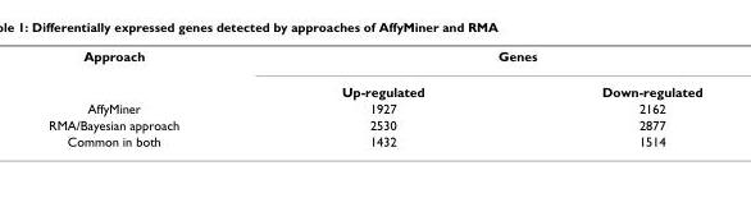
<table><tbody><tr><td rowspan="2">Approach</td><td colspan="2">Genes</td></tr><tr><td>Up-regulated</td><td>Down-regulated</td></tr><tr><td>AffyMiner</td><td>1927</td><td>2162</td></tr><tr><td>RMA/Bayesian approach</td><td>2530</td><td>2877</td></tr><tr><td>Common in both</td><td>1432</td><td>1514</td></tr></tbody></table>